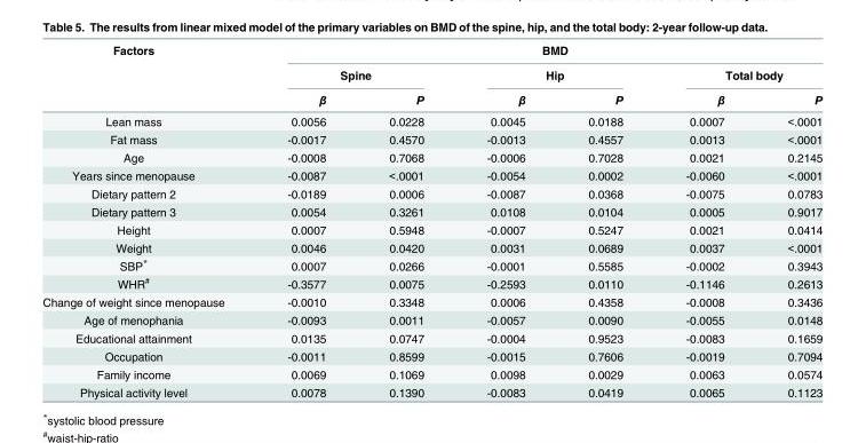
<table><thead><tr><td rowspan="3">Factors</td><td colspan="6">BMD</td></tr><tr><td colspan="2">Spine</td><td colspan="2">Hip</td><td colspan="2">Total body</td></tr><tr><td>β</td><td>P</td><td>β</td><td>P</td><td>β</td><td>P</td></tr></thead><tbody><tr><td>Lean mass</td><td>0.0056</td><td>0.0228</td><td>0.0045</td><td>0.0188</td><td>0.0007</td><td>&lt;.0001</td></tr><tr><td>Fat mass</td><td>-0.0017</td><td>0.4570</td><td>-0.0013</td><td>0.4557</td><td>0.0013</td><td>&lt;.0001</td></tr><tr><td>Age</td><td>-0.0008</td><td>0.7068</td><td>-0.0006</td><td>0.7028</td><td>0.0021</td><td>0.2145</td></tr><tr><td>Years since menopause</td><td>-0.0087</td><td>&lt;.0001</td><td>-0.0054</td><td>0.0002</td><td>-0.0060</td><td>&lt;.0001</td></tr><tr><td>Dietary pattern 2</td><td>-0.0189</td><td>0.0006</td><td>-0.0087</td><td>0.0368</td><td>-0.0075</td><td>0.0783</td></tr><tr><td>Dietary pattern 3</td><td>0.0054</td><td>0.3261</td><td>0.0108</td><td>0.0104</td><td>0.0005</td><td>0.9017</td></tr><tr><td>Height</td><td>0.0007</td><td>0.5948</td><td>-0.0007</td><td>0.5247</td><td>0.0021</td><td>0.0414</td></tr><tr><td>Weight</td><td>0.0046</td><td>0.0420</td><td>0.0031</td><td>0.0689</td><td>0.0037</td><td>&lt;.0001</td></tr><tr><td>SBP*</td><td>0.0007</td><td>0.0266</td><td>-0.0001</td><td>0.5585</td><td>-0.0002</td><td>0.3943</td></tr><tr><td>WHR<sup>#</sup></td><td>-0.3577</td><td>0.0075</td><td>-0.2593</td><td>0.0110</td><td>-0.1146</td><td>0.2613</td></tr><tr><td>Change of weight since menopause</td><td>-0.0010</td><td>0.3348</td><td>0.0006</td><td>0.4358</td><td>-0.0008</td><td>0.3436</td></tr><tr><td>Age of menophania</td><td>-0.0093</td><td>0.0011</td><td>-0.0057</td><td>0.0090</td><td>-0.0055</td><td>0.0148</td></tr><tr><td>Educational attainment</td><td>0.0135</td><td>0.0747</td><td>-0.0004</td><td>0.9523</td><td>-0.0083</td><td>0.1659</td></tr><tr><td>Occupation</td><td>-0.0011</td><td>0.8599</td><td>-0.0015</td><td>0.7606</td><td>-0.0019</td><td>0.7094</td></tr><tr><td>Family income</td><td>0.0069</td><td>0.1069</td><td>0.0098</td><td>0.0029</td><td>0.0063</td><td>0.0574</td></tr><tr><td>Physical activity level</td><td>0.0078</td><td>0.1390</td><td>-0.0083</td><td>0.0419</td><td>0.0065</td><td>0.1123</td></tr></tbody></table>